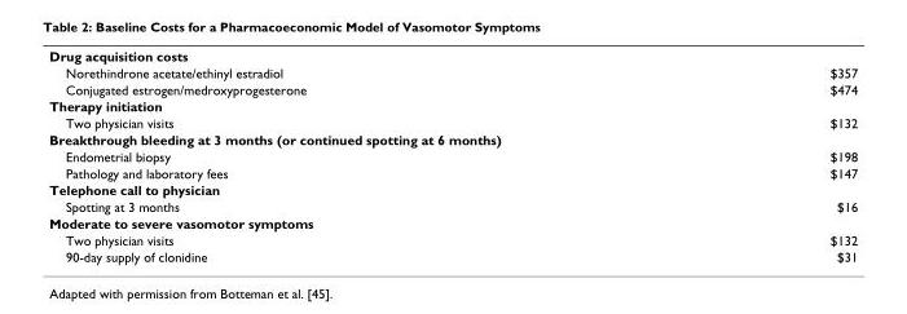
<table><tbody><tr><td colspan="2">Drug acquisition costs</td></tr><tr><td>Norethindrone acetate/ethinyl estradiol</td><td>$357</td></tr><tr><td>Conjugated estrogen/medroxyprogesterone</td><td>$474</td></tr><tr><td colspan="2">Therapy initiation</td></tr><tr><td>Two physician visits</td><td>$132</td></tr><tr><td colspan="2">Breakthrough bleeding at 3 months (or continued spotting at 6 months)</td></tr><tr><td>Endometrial biopsy</td><td>$198</td></tr><tr><td>Pathology and laboratory fees</td><td>$147</td></tr><tr><td colspan="2">Telephone call to physician</td></tr><tr><td>Spotting at 3 months</td><td>$16</td></tr><tr><td colspan="2">Moderate to severe vasomotor symptoms</td></tr><tr><td>Two physician visits</td><td>$132</td></tr><tr><td>90-day supply of clonidine</td><td>$31</td></tr></tbody></table>